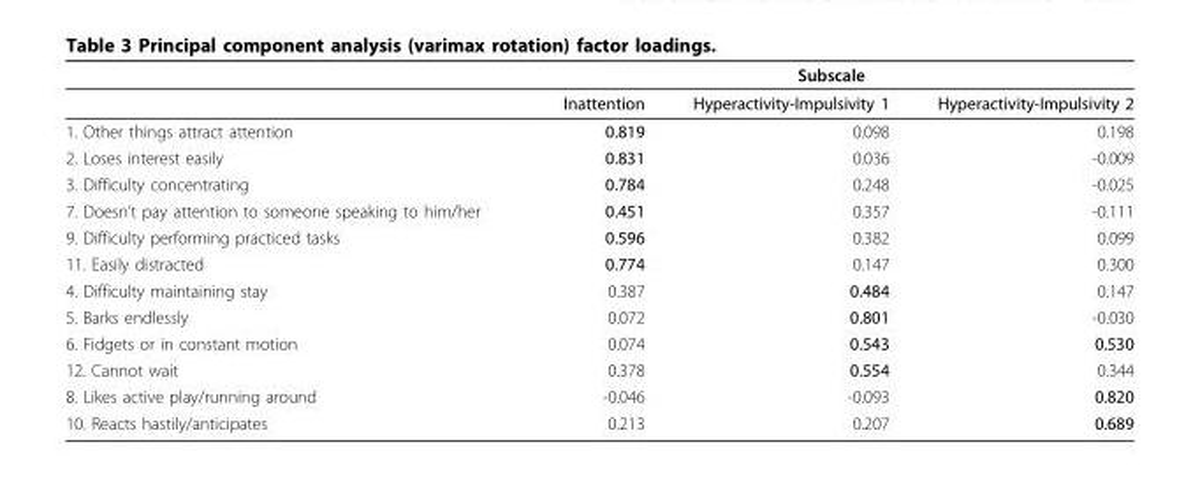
<table><thead><tr><td rowspan="2"></td><td colspan="3">Subscale</td></tr><tr><td>Inattention</td><td>Hyperactivity-Impulsivity 1</td><td>Hyperactivity-Impulsivity 2</td></tr></thead><tbody><tr><td>1. Other things attract attention</td><td>0.819</td><td>0.098</td><td>0.198</td></tr><tr><td>2. Loses interest easily</td><td>0.831</td><td>0.036</td><td>-0.009</td></tr><tr><td>3. Difficulty concentrating</td><td>0.784</td><td>0.248</td><td>-0.025</td></tr><tr><td>7. Doesn’t pay attention to someone speaking to him/her</td><td>0.451</td><td>0.357</td><td>-0.111</td></tr><tr><td>9. Difficulty performing practiced tasks</td><td>0.596</td><td>0.382</td><td>0.099</td></tr><tr><td>11. Easily distracted</td><td>0.774</td><td>0.147</td><td>0.300</td></tr><tr><td>4. Difficulty maintaining stay</td><td>0.387</td><td>0.484</td><td>0.147</td></tr><tr><td>5. Barks endlessly</td><td>0.072</td><td>0.801</td><td>-0.030</td></tr><tr><td>6. Fidgets or in constant motion</td><td>0.074</td><td>0.543</td><td>0.530</td></tr><tr><td>12. Cannot wait</td><td>0.378</td><td>0.554</td><td>0.344</td></tr><tr><td>8. Likes active play/running around</td><td>-0.046</td><td>-0.093</td><td>0.820</td></tr><tr><td>10. Reacts hastily/anticipates</td><td>0.213</td><td>0.207</td><td>0.689</td></tr></tbody></table>